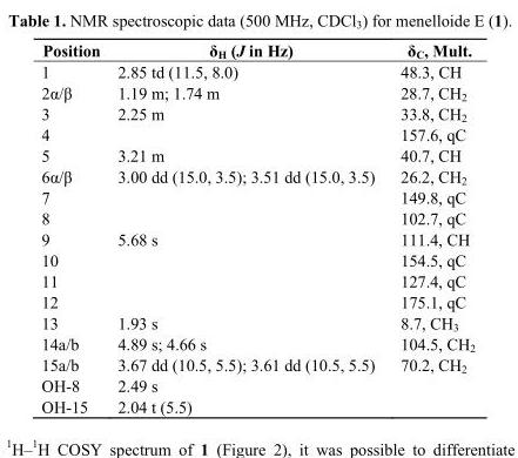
<table><thead><tr><td>Position</td><td>δ<sub>H</sub> (J in Hz)</td><td>δ<sub>C</sub>, Mult.</td></tr></thead><tbody><tr><td>1</td><td>2.85 td (11.5, 8.0)</td><td>48.3, CH</td></tr><tr><td>2α/β</td><td>1.19 m; 1.74 m</td><td>28.7, CH<sub>2</sub></td></tr><tr><td>3</td><td>2.25 m</td><td>33.8, CH<sub>2</sub></td></tr><tr><td>4</td><td></td><td>157.6, qC</td></tr><tr><td>5</td><td>3.21 m</td><td>40.7, CH</td></tr><tr><td>6α/β</td><td>3.00 dd (15.0, 3.5); 3.51 dd (15.0, 3.5)</td><td>26.2, CH<sub>2</sub></td></tr><tr><td>7</td><td></td><td>149.8, qC</td></tr><tr><td>8</td><td></td><td>102.7, qC</td></tr><tr><td>9</td><td>5.68 s</td><td>111.4, CH</td></tr><tr><td>10</td><td></td><td>154.5, qC</td></tr><tr><td>11</td><td></td><td>127.4, qC</td></tr><tr><td>12</td><td></td><td>175.1, qC</td></tr><tr><td>13</td><td>1.93 s</td><td>8.7, CH<sub>3</sub></td></tr><tr><td>14a/b</td><td>4.89 s; 4.66 s</td><td>104.5, CH<sub>2</sub></td></tr><tr><td>15a/b</td><td>3.67 dd (10.5, 5.5); 3.61 dd (10.5, 5.5)</td><td>70.2, CH<sub>2</sub></td></tr><tr><td>OH-8</td><td>2.49 s</td><td></td></tr><tr><td>OH-15</td><td>2.04 t (5.5)</td><td></td></tr></tbody></table>